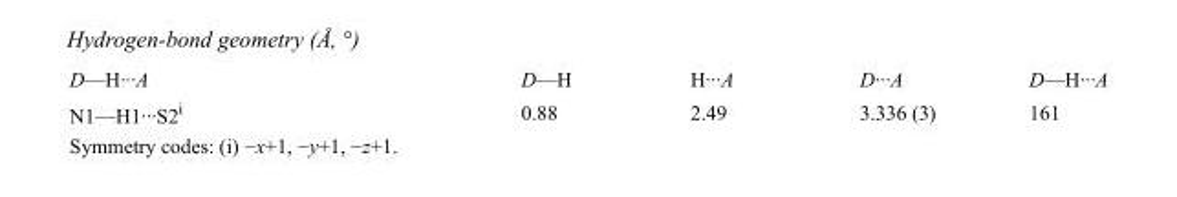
<table><tbody><tr><td>D—H···A</td><td>D—H</td><td>H···A</td><td>D···A</td><td>D—H···A</td></tr><tr><td>N1—H1···S2<sup>i</sup></td><td>0.88</td><td>2.49</td><td>3.336 (3)</td><td>161</td></tr></tbody></table>